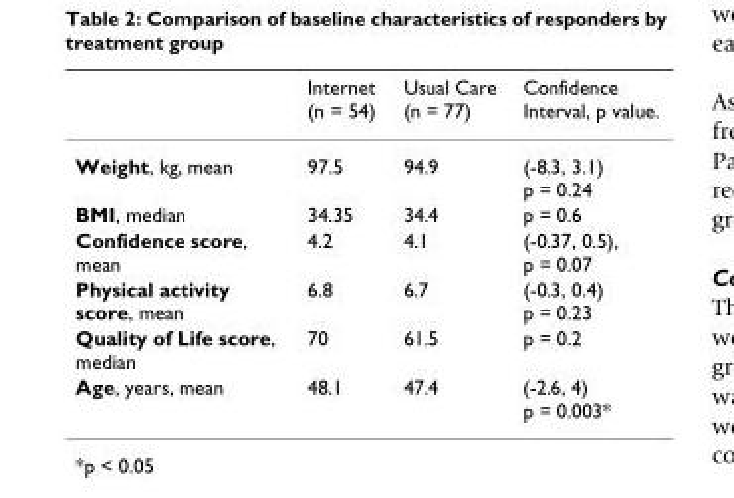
<table><thead><tr><td></td><td>Internet (n = 54)</td><td>Usual Care (n = 77)</td><td>Confidence Interval, p value.</td></tr></thead><tbody><tr><td>Weight, kg, mean</td><td>97.5</td><td>94.9</td><td>(-8.3, 3.1) p = 0.24</td></tr><tr><td>BMI, median</td><td>34.35</td><td>34.4</td><td>p = 0.6</td></tr><tr><td>Confidence score, mean</td><td>4.2</td><td>4.1</td><td>(-0.37, 0.5), p = 0.07</td></tr><tr><td>Physical activity score, mean</td><td>6.8</td><td>6.7</td><td>(-0.3, 0.4) p = 0.23</td></tr><tr><td>Quality of Life score, median</td><td>70</td><td>61.5</td><td>p = 0.2</td></tr><tr><td>Age, years, mean</td><td>48.1</td><td>47.4</td><td>(-2.6, 4) p = 0.003*</td></tr></tbody></table>